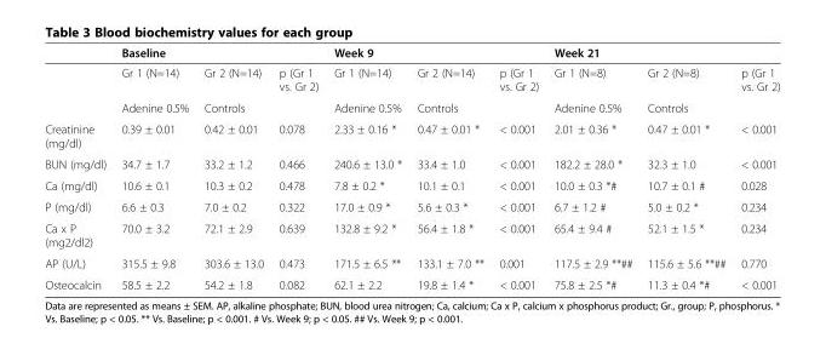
<table><thead><tr><td></td><td>Baseline</td><td></td><td></td><td>Week 9</td><td></td><td></td><td>Week 21</td><td></td><td></td></tr></thead><tbody><tr><td></td><td>Gr 1 (N=14)</td><td>Gr 2 (N=14)</td><td>p (Gr 1 vs. Gr 2)</td><td>Gr 1 (N=14)</td><td>Gr 2 (N=14)</td><td>p (Gr 1 vs. Gr 2)</td><td>Gr 1 (N=8)</td><td>Gr 2 (N=8)</td><td>p (Gr 1 vs. Gr 2)</td></tr><tr><td></td><td>Adenine 0.5%</td><td>Controls</td><td></td><td>Adenine 0.5%</td><td>Controls</td><td></td><td>Adenine 0.5%</td><td>Controls</td><td></td></tr><tr><td>Creatinine (mg/dl)</td><td>0.39 ± 0.01</td><td>0.42 ± 0.01</td><td>0.078</td><td>2.33 ± 0.16 *</td><td>0.47 ± 0.01 *</td><td>&lt; 0.001</td><td>2.01 ± 0.36 *</td><td>0.47 ± 0.01 *</td><td>&lt; 0.001</td></tr><tr><td>BUN (mg/dl)</td><td>34.7 ± 1.7</td><td>33.2 ± 1.2</td><td>0.466</td><td>240.6 ± 13.0 *</td><td>33.4 ± 1.0</td><td>&lt; 0.001</td><td>182.2 ± 28.0 *</td><td>32.3 ± 1.0</td><td>&lt; 0.001</td></tr><tr><td>Ca (mg/dl)</td><td>10.6 ± 0.1</td><td>10.3 ± 0.2</td><td>0.478</td><td>7.8 ± 0.2 *</td><td>10.1 ± 0.1</td><td>&lt; 0.001</td><td>10.0 ± 0.3 *#</td><td>10.7 ± 0.1 #</td><td>0.028</td></tr><tr><td>P (mg/dl)</td><td>6.6 ± 0.3</td><td>7.0 ± 0.2</td><td>0.322</td><td>17.0 ± 0.9 *</td><td>5.6 ± 0.3 *</td><td>&lt; 0.001</td><td>6.7 ± 1.2 #</td><td>5.0 ± 0.2 *</td><td>0.234</td></tr><tr><td>Ca x P (mg2/dl2)</td><td>70.0 ± 3.2</td><td>72.1 ± 2.9</td><td>0.639</td><td>132.8 ± 9.2 *</td><td>56.4 ± 1.8 *</td><td>&lt; 0.001</td><td>65.4 ± 9.4 #</td><td>52.1 ± 1.5 *</td><td>0.234</td></tr><tr><td>AP (U/L)</td><td>315.5 ± 9.8</td><td>303.6 ± 13.0</td><td>0.473</td><td>171.5 ± 6.5 **</td><td>133.1 ± 7.0 **</td><td>0.001</td><td>117.5 ± 2.9 **##</td><td>115.6 ± 5.6 **##</td><td>0.770</td></tr><tr><td>Osteocalcin</td><td>58.5 ± 2.2</td><td>54.2 ± 1.8</td><td>0.082</td><td>62.1 ± 2.2</td><td>19.8 ± 1.4 *</td><td>&lt; 0.001</td><td>75.8 ± 2.5 *#</td><td>11.3 ± 0.4 *#</td><td>&lt; 0.001</td></tr></tbody></table>